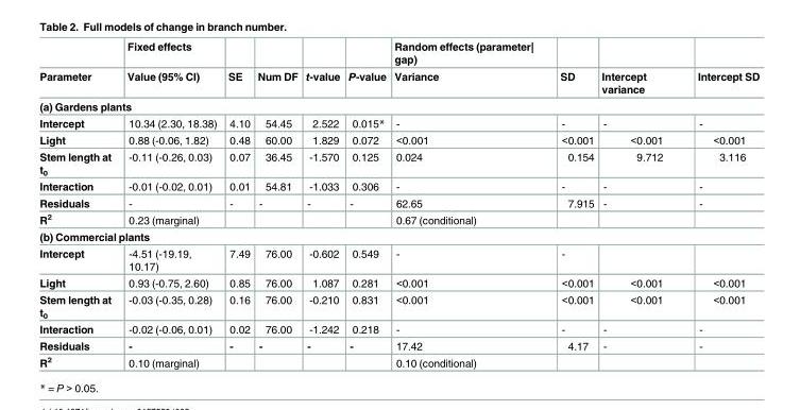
<table><thead><tr><td rowspan="2">Parameter</td><td rowspan="2">Fixed effects Value (95% CI)</td><td rowspan="2">SE</td><td rowspan="2">Num DF</td><td rowspan="2">t-value</td><td rowspan="2">P-value</td><td rowspan="2">Random effects (parameter| gap) Variance</td><td rowspan="2">SD</td><td rowspan="2">Intercept variance</td><td rowspan="2">Intercept SD</td></tr><tr></tr></thead><tbody><tr><td colspan="10">(a) Gardens plants</td></tr><tr><td>Intercept</td><td>10.34 (2.30, 18.38)</td><td>4.10</td><td>54.45</td><td>2.522</td><td>0.015*</td><td>-</td><td>-</td><td>-</td><td>-</td></tr><tr><td>Light</td><td>0.88 (-0.06, 1.82)</td><td>0.48</td><td>60.00</td><td>1.829</td><td>0.072</td><td>&lt;0.001</td><td>&lt;0.001</td><td>&lt;0.001</td><td>&lt;0.001</td></tr><tr><td>Stem length at t<sub>0</sub></td><td>-0.11 (-0.26, 0.03)</td><td>0.07</td><td>36.45</td><td>-1.570</td><td>0.125</td><td>0.024</td><td>0.154</td><td>9.712</td><td>3.116</td></tr><tr><td>Interaction</td><td>-0.01 (-0.02, 0.01)</td><td>0.01</td><td>54.81</td><td>-1.033</td><td>0.306</td><td>-</td><td>-</td><td>-</td><td>-</td></tr><tr><td>Residuals</td><td>-</td><td>-</td><td>-</td><td>-</td><td>-</td><td>62.65</td><td>7.915</td><td>-</td><td>-</td></tr><tr><td>R<sup>2</sup></td><td>0.23 (marginal)</td><td></td><td></td><td></td><td></td><td>0.67 (conditional)</td><td></td><td></td><td></td></tr><tr><td colspan="10">(b) Commercial plants</td></tr><tr><td>Intercept</td><td>-4.51 (-19.19, 10.17)</td><td>7.49</td><td>76.00</td><td>-0.602</td><td>0.549</td><td>-</td><td>-</td><td></td><td></td></tr><tr><td>Light</td><td>0.93 (-0.75, 2.60)</td><td>0.85</td><td>76.00</td><td>1.087</td><td>0.281</td><td>&lt;0.001</td><td>&lt;0.001</td><td>&lt;0.001</td><td>&lt;0.001</td></tr><tr><td>Stem length at t<sub>0</sub></td><td>-0.03 (-0.35, 0.28)</td><td>0.16</td><td>76.00</td><td>-0.210</td><td>0.831</td><td>&lt;0.001</td><td>&lt;0.001</td><td>&lt;0.001</td><td>&lt;0.001</td></tr><tr><td>Interaction</td><td>-0.02 (-0.06, 0.01)</td><td>0.02</td><td>76.00</td><td>-1.242</td><td>0.218</td><td>-</td><td>-</td><td>-</td><td>-</td></tr><tr><td>Residuals</td><td>-</td><td>-</td><td>-</td><td>-</td><td>-</td><td>17.42</td><td>4.17</td><td>-</td><td>-</td></tr><tr><td>R<sup>2</sup></td><td>0.10 (marginal)</td><td></td><td></td><td></td><td></td><td>0.10 (conditional)</td><td></td><td></td><td></td></tr></tbody></table>